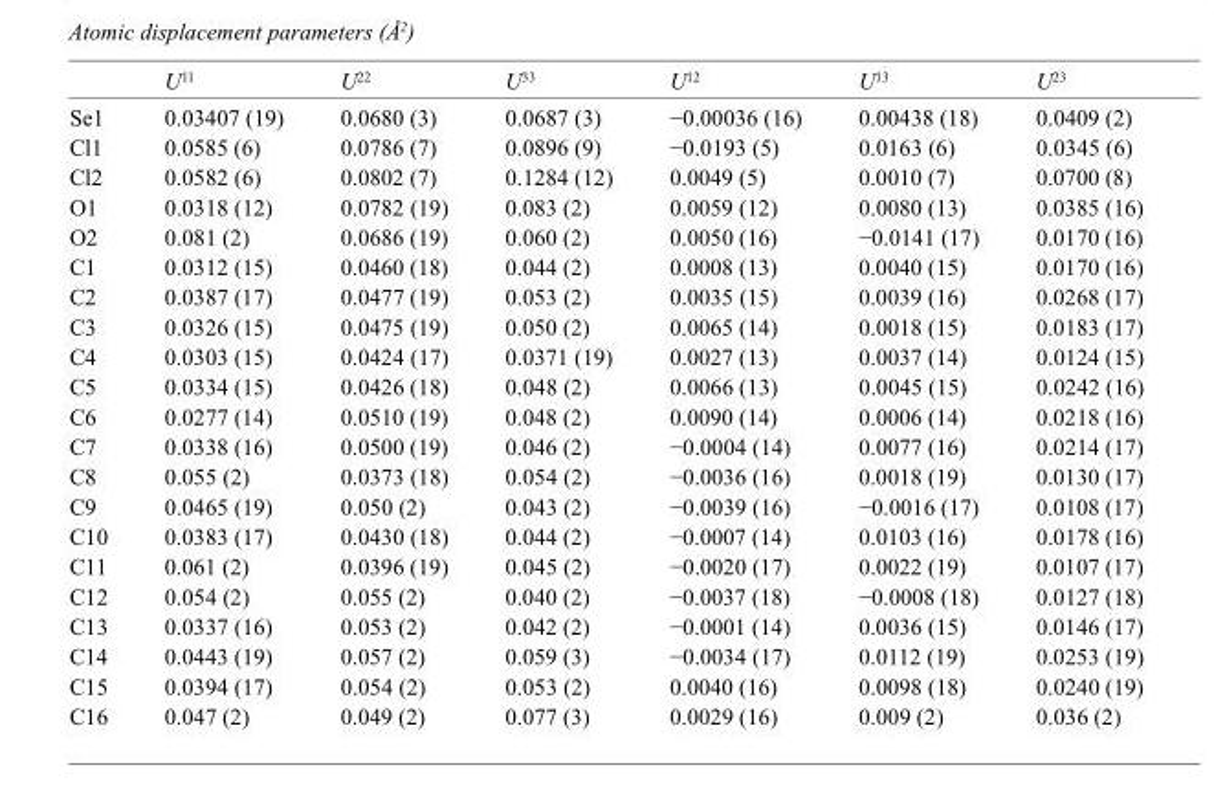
<table><thead><tr><td></td><td>U<sup>11</sup></td><td>U<sup>22</sup></td><td>U<sup>33</sup></td><td>U<sup>12</sup></td><td>U<sup>13</sup></td><td>U<sup>23</sup></td></tr></thead><tbody><tr><td>Se1</td><td>0.03407 (19)</td><td>0.0680 (3)</td><td>0.0687 (3)</td><td>−0.00036 (16)</td><td>0.00438 (18)</td><td>0.0409 (2)</td></tr><tr><td>Cl1</td><td>0.0585 (6)</td><td>0.0786 (7)</td><td>0.0896 (9)</td><td>−0.0193 (5)</td><td>0.0163 (6)</td><td>0.0345 (6)</td></tr><tr><td>Cl2</td><td>0.0582 (6)</td><td>0.0802 (7)</td><td>0.1284 (12)</td><td>0.0049 (5)</td><td>0.0010 (7)</td><td>0.0700 (8)</td></tr><tr><td>O1</td><td>0.0318 (12)</td><td>0.0782 (19)</td><td>0.083 (2)</td><td>0.0059 (12)</td><td>0.0080 (13)</td><td>0.0385 (16)</td></tr><tr><td>O2</td><td>0.081 (2)</td><td>0.0686 (19)</td><td>0.060 (2)</td><td>0.0050 (16)</td><td>−0.0141 (17)</td><td>0.0170 (16)</td></tr><tr><td>C1</td><td>0.0312 (15)</td><td>0.0460 (18)</td><td>0.044 (2)</td><td>0.0008 (13)</td><td>0.0040 (15)</td><td>0.0170 (16)</td></tr><tr><td>C2</td><td>0.0387 (17)</td><td>0.0477 (19)</td><td>0.053 (2)</td><td>0.0035 (15)</td><td>0.0039 (16)</td><td>0.0268 (17)</td></tr><tr><td>C3</td><td>0.0326 (15)</td><td>0.0475 (19)</td><td>0.050 (2)</td><td>0.0065 (14)</td><td>0.0018 (15)</td><td>0.0183 (17)</td></tr><tr><td>C4</td><td>0.0303 (15)</td><td>0.0424 (17)</td><td>0.0371 (19)</td><td>0.0027 (13)</td><td>0.0037 (14)</td><td>0.0124 (15)</td></tr><tr><td>C5</td><td>0.0334 (15)</td><td>0.0426 (18)</td><td>0.048 (2)</td><td>0.0066 (13)</td><td>0.0045 (15)</td><td>0.0242 (16)</td></tr><tr><td>C6</td><td>0.0277 (14)</td><td>0.0510 (19)</td><td>0.048 (2)</td><td>0.0090 (14)</td><td>0.0006 (14)</td><td>0.0218 (16)</td></tr><tr><td>C7</td><td>0.0338 (16)</td><td>0.0500 (19)</td><td>0.046 (2)</td><td>−0.0004 (14)</td><td>0.0077 (16)</td><td>0.0214 (17)</td></tr><tr><td>C8</td><td>0.055 (2)</td><td>0.0373 (18)</td><td>0.054 (2)</td><td>−0.0036 (16)</td><td>0.0018 (19)</td><td>0.0130 (17)</td></tr><tr><td>C9</td><td>0.0465 (19)</td><td>0.050 (2)</td><td>0.043 (2)</td><td>−0.0039 (16)</td><td>−0.0016 (17)</td><td>0.0108 (17)</td></tr><tr><td>C10</td><td>0.0383 (17)</td><td>0.0430 (18)</td><td>0.044 (2)</td><td>−0.0007 (14)</td><td>0.0103 (16)</td><td>0.0178 (16)</td></tr><tr><td>C11</td><td>0.061 (2)</td><td>0.0396 (19)</td><td>0.045 (2)</td><td>−0.0020 (17)</td><td>0.0022 (19)</td><td>0.0107 (17)</td></tr><tr><td>C12</td><td>0.054 (2)</td><td>0.055 (2)</td><td>0.040 (2)</td><td>−0.0037 (18)</td><td>−0.0008 (18)</td><td>0.0127 (18)</td></tr><tr><td>C13</td><td>0.0337 (16)</td><td>0.053 (2)</td><td>0.042 (2)</td><td>−0.0001 (14)</td><td>0.0036 (15)</td><td>0.0146 (17)</td></tr><tr><td>C14</td><td>0.0443 (19)</td><td>0.057 (2)</td><td>0.059 (3)</td><td>−0.0034 (17)</td><td>0.0112 (19)</td><td>0.0253 (19)</td></tr><tr><td>C15</td><td>0.0394 (17)</td><td>0.054 (2)</td><td>0.053 (2)</td><td>0.0040 (16)</td><td>0.0098 (18)</td><td>0.0240 (19)</td></tr><tr><td>C16</td><td>0.047 (2)</td><td>0.049 (2)</td><td>0.077 (3)</td><td>0.0029 (16)</td><td>0.009 (2)</td><td>0.036 (2)</td></tr></tbody></table>